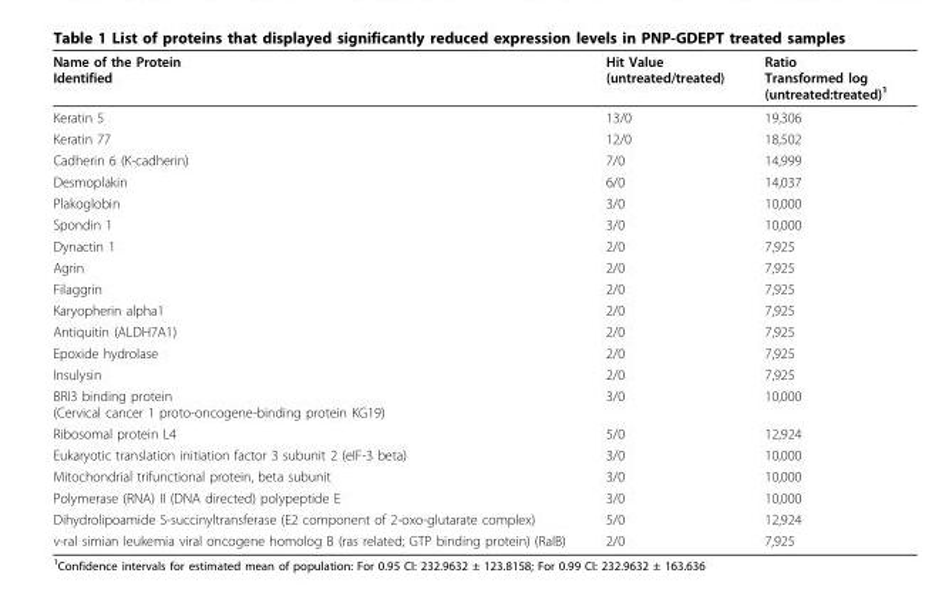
<table><thead><tr><td>Name of the Protein Identified</td><td>Hit Value (untreated/treated)</td><td>Ratio Transformed log (untreated:treated)<sup>1</sup></td></tr></thead><tbody><tr><td>Keratin 5</td><td>13/0</td><td>19,306</td></tr><tr><td>Keratin 77</td><td>12/0</td><td>18,502</td></tr><tr><td>Cadherin 6 (K-cadherin)</td><td>7/0</td><td>14,999</td></tr><tr><td>Desmoplakin</td><td>6/0</td><td>14,037</td></tr><tr><td>Plakoglobin</td><td>3/0</td><td>10,000</td></tr><tr><td>Spondin 1</td><td>3/0</td><td>10,000</td></tr><tr><td>Dynactin 1</td><td>2/0</td><td>7,925</td></tr><tr><td>Agrin</td><td>2/0</td><td>7,925</td></tr><tr><td>Filaggrin</td><td>2/0</td><td>7,925</td></tr><tr><td>Karyopherin alpha1</td><td>2/0</td><td>7,925</td></tr><tr><td>Antiquitin (ALDH7A1)</td><td>2/0</td><td>7,925</td></tr><tr><td>Epoxide hydrolase</td><td>2/0</td><td>7,925</td></tr><tr><td>Insulysin</td><td>2/0</td><td>7,925</td></tr><tr><td>BRI3 binding protein (Cervical cancer 1 proto-oncogene-binding protein KG19)</td><td>3/0</td><td>10,000</td></tr><tr><td>Ribosomal protein L4</td><td>5/0</td><td>12,924</td></tr><tr><td>Eukaryotic translation initiation factor 3 subunit 2 (eIF-3 beta)</td><td>3/0</td><td>10,000</td></tr><tr><td>Mitochondrial trifunctional protein, beta subunit</td><td>3/0</td><td>10,000</td></tr><tr><td>Polymerase (RNA) II (DNA directed) polypeptide E</td><td>3/0</td><td>10,000</td></tr><tr><td>Dihydrolipoamide S-succinyltransferase (E2 component of 2-oxo-glutarate complex)</td><td>5/0</td><td>12,924</td></tr><tr><td>v-ral simian leukemia viral oncogene homolog B (ras related; GTP binding protein) (RalB)</td><td>2/0</td><td>7,925</td></tr></tbody></table>